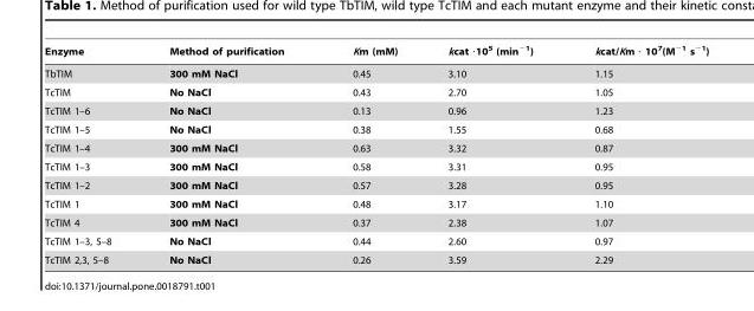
<table><thead><tr><td>Enzyme</td><td>Method of purification</td><td>Km (mM)</td><td>kcat ⋅10<sup>5</sup> (min<sup>−1</sup>)</td><td>kcat/Km ⋅ 10<sup>7</sup>(M<sup>−1</sup> s<sup>−1</sup>)</td></tr></thead><tbody><tr><td>TbTIM</td><td>300 mM NaCl</td><td>0.45</td><td>3.10</td><td>1.15</td></tr><tr><td>TcTIM</td><td>No NaCl</td><td>0.43</td><td>2.70</td><td>1.05</td></tr><tr><td>TcTIM 1–6</td><td>No NaCl</td><td>0.13</td><td>0.96</td><td>1.23</td></tr><tr><td>TcTIM 1–5</td><td>No NaCl</td><td>0.38</td><td>1.55</td><td>0.68</td></tr><tr><td>TcTIM 1–4</td><td>300 mM NaCl</td><td>0.63</td><td>3.32</td><td>0.87</td></tr><tr><td>TcTIM 1–3</td><td>300 mM NaCl</td><td>0.58</td><td>3.31</td><td>0.95</td></tr><tr><td>TcTIM 1–2</td><td>300 mM NaCl</td><td>0.57</td><td>3.28</td><td>0.95</td></tr><tr><td>TcTIM 1</td><td>300 mM NaCl</td><td>0.48</td><td>3.17</td><td>1.10</td></tr><tr><td>TcTIM 4</td><td>300 mM NaCl</td><td>0.37</td><td>2.38</td><td>1.07</td></tr><tr><td>TcTIM 1–3, 5–8</td><td>No NaCl</td><td>0.44</td><td>2.60</td><td>0.97</td></tr><tr><td>TcTIM 2,3, 5–8</td><td>No NaCl</td><td>0.26</td><td>3.59</td><td>2.29</td></tr></tbody></table>